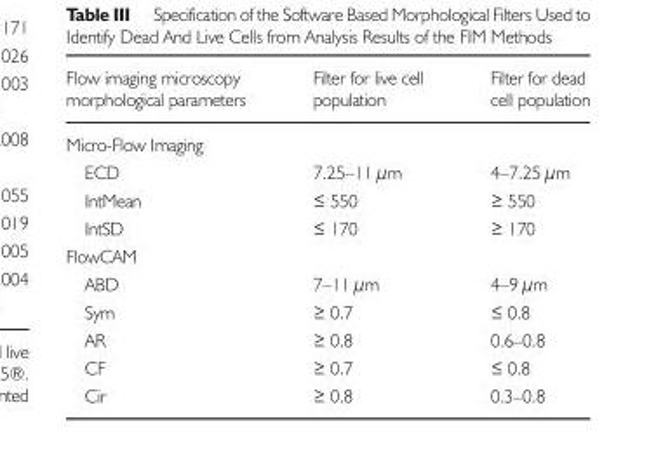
<table><thead><tr><td>Flow imaging microscopy morphological parameters</td><td>Filter for live cell population</td><td>Filter for dead cell population</td></tr></thead><tbody><tr><td colspan="3">Micro-Flow Imaging</td></tr><tr><td>ECD</td><td>7.25–11 μm</td><td>4–7.25 μm</td></tr><tr><td>IntMean</td><td>≤ 550</td><td>≥ 550</td></tr><tr><td>IntSD</td><td>≤ 170</td><td>≥ 170</td></tr><tr><td colspan="3">FlowCAM</td></tr><tr><td>ABD</td><td>7–11 μm</td><td>4–9 μm</td></tr><tr><td>Sym</td><td>≥ 0.7</td><td>≤ 0.8</td></tr><tr><td>AR</td><td>≥ 0.8</td><td>0.6–0.8</td></tr><tr><td>CF</td><td>≥ 0.7</td><td>≤ 0.8</td></tr><tr><td>Cir</td><td>≥ 0.8</td><td>0.3–0.8</td></tr></tbody></table>